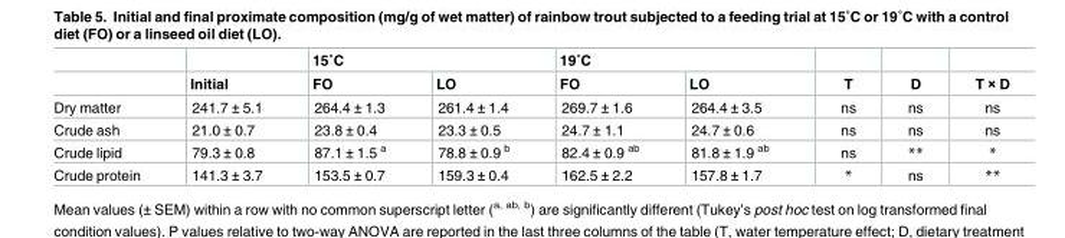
<table><thead><tr><td rowspan="2"></td><td rowspan="2">Initial</td><td colspan="2">15˚C</td><td colspan="2">19˚C</td><td rowspan="2">T</td><td rowspan="2">D</td><td rowspan="2">T × D</td></tr><tr><td>FO</td><td>LO</td><td>FO</td><td>LO</td></tr></thead><tbody><tr><td>Dry matter</td><td>241.7 ± 5.1</td><td>264.4 ± 1.3</td><td>261.4 ± 1.4</td><td>269.7 ± 1.6</td><td>264.4 ± 3.5</td><td>ns</td><td>ns</td><td>ns</td></tr><tr><td>Crude ash</td><td>21.0 ± 0.7</td><td>23.8 ± 0.4</td><td>23.3 ± 0.5</td><td>24.7 ± 1.1</td><td>24.7 ± 0.6</td><td>ns</td><td>ns</td><td>ns</td></tr><tr><td>Crude lipid</td><td>79.3 ± 0.8</td><td>87.1 ± 1.5 <sup>a</sup></td><td>78.8 ± 0.9 <sup>b</sup></td><td>82.4 ± 0.9 <sup>ab</sup></td><td>81.8 ± 1.9 <sup>ab</sup></td><td>ns</td><td>**</td><td>*</td></tr><tr><td>Crude protein</td><td>141.3 ± 3.7</td><td>153.5 ± 0.7</td><td>159.3 ± 0.4</td><td>162.5 ± 2.2</td><td>157.8 ± 1.7</td><td>*</td><td>ns</td><td>**</td></tr></tbody></table>